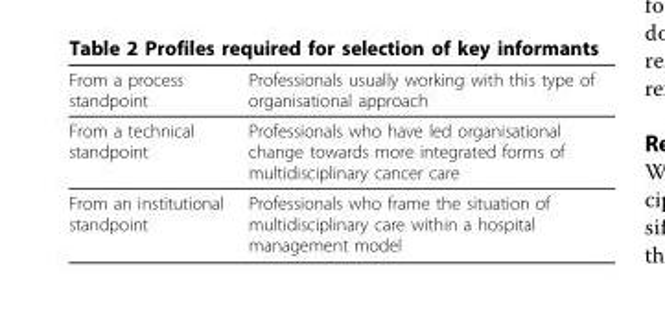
<table><thead><tr><td>From a process standpoint</td><td>Professionals usually working with this type of organisational approach</td></tr></thead><tbody><tr><td>From a technical standpoint</td><td>Professionals who have led organisational change towards more integrated forms of multidisciplinary cancer care</td></tr><tr><td>From an institutional standpoint</td><td>Professionals who frame the situation of multidisciplinary care within a hospital management model</td></tr></tbody></table>